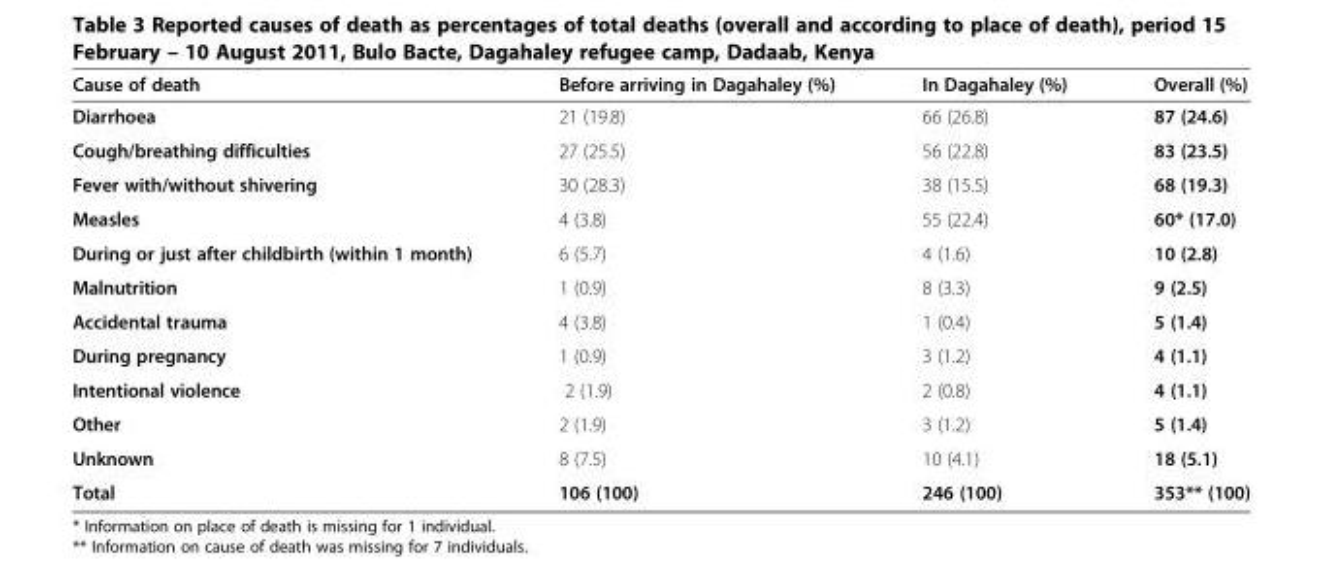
<table><thead><tr><td>Cause of death</td><td>Before arriving in Dagahaley (%)</td><td>In Dagahaley (%)</td><td>Overall (%)</td></tr></thead><tbody><tr><td>Diarrhoea</td><td>21 (19.8)</td><td>66 (26.8)</td><td>87 (24.6)</td></tr><tr><td>Cough/breathing difficulties</td><td>27 (25.5)</td><td>56 (22.8)</td><td>83 (23.5)</td></tr><tr><td>Fever with/without shivering</td><td>30 (28.3)</td><td>38 (15.5)</td><td>68 (19.3)</td></tr><tr><td>Measles</td><td>4 (3.8)</td><td>55 (22.4)</td><td>60* (17.0)</td></tr><tr><td>During or just after childbirth (within 1 month)</td><td>6 (5.7)</td><td>4 (1.6)</td><td>10 (2.8)</td></tr><tr><td>Malnutrition</td><td>1 (0.9)</td><td>8 (3.3)</td><td>9 (2.5)</td></tr><tr><td>Accidental trauma</td><td>4 (3.8)</td><td>1 (0.4)</td><td>5 (1.4)</td></tr><tr><td>During pregnancy</td><td>1 (0.9)</td><td>3 (1.2)</td><td>4 (1.1)</td></tr><tr><td>Intentional violence</td><td>2 (1.9)</td><td>2 (0.8)</td><td>4 (1.1)</td></tr><tr><td>Other</td><td>2 (1.9)</td><td>3 (1.2)</td><td>5 (1.4)</td></tr><tr><td>Unknown</td><td>8 (7.5)</td><td>10 (4.1)</td><td>18 (5.1)</td></tr><tr><td>Total</td><td>106 (100)</td><td>246 (100)</td><td>353** (100)</td></tr></tbody></table>